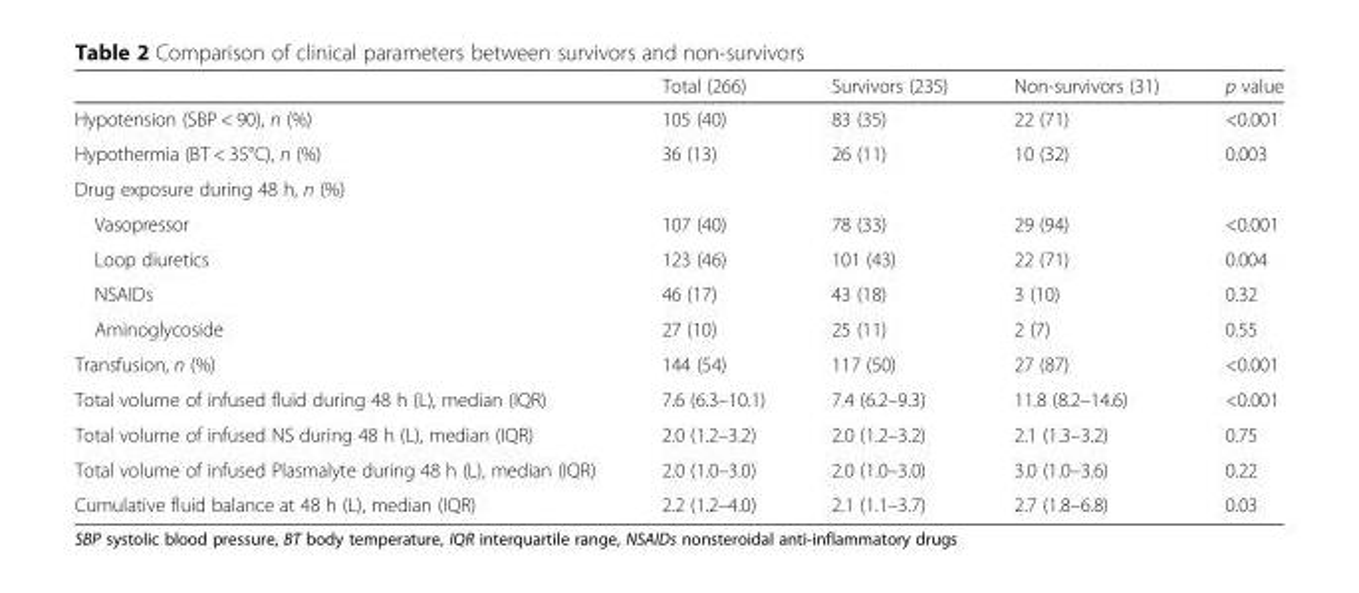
<table><thead><tr><td></td><td>Total (266)</td><td>Survivors (235)</td><td>Non-survivors (31)</td><td>p value</td></tr></thead><tbody><tr><td>Hypotension (SBP &lt; 90), n (%)</td><td>105 (40)</td><td>83 (35)</td><td>22 (71)</td><td>&lt;0.001</td></tr><tr><td>Hypothermia (BT &lt; 35°C), n (%)</td><td>36 (13)</td><td>26 (11)</td><td>10 (32)</td><td>0.003</td></tr><tr><td colspan="5">Drug exposure during 48 h, n (%)</td></tr><tr><td>Vasopressor</td><td>107 (40)</td><td>78 (33)</td><td>29 (94)</td><td>&lt;0.001</td></tr><tr><td>Loop diuretics</td><td>123 (46)</td><td>101 (43)</td><td>22 (71)</td><td>0.004</td></tr><tr><td>NSAIDs</td><td>46 (17)</td><td>43 (18)</td><td>3 (10)</td><td>0.32</td></tr><tr><td>Aminoglycoside</td><td>27 (10)</td><td>25 (11)</td><td>2 (7)</td><td>0.55</td></tr><tr><td>Transfusion, n (%)</td><td>144 (54)</td><td>117 (50)</td><td>27 (87)</td><td>&lt;0.001</td></tr><tr><td>Total volume of infused fluid during 48 h (L), median (IQR)</td><td>7.6 (6.3–10.1)</td><td>7.4 (6.2–9.3)</td><td>11.8 (8.2–14.6)</td><td>&lt;0.001</td></tr><tr><td>Total volume of infused NS during 48 h (L), median (IQR)</td><td>2.0 (1.2–3.2)</td><td>2.0 (1.2–3.2)</td><td>2.1 (1.3–3.2)</td><td>0.75</td></tr><tr><td>Total volume of infused Plasmalyte during 48 h (L), median (IQR)</td><td>2.0 (1.0–3.0)</td><td>2.0 (1.0–3.0)</td><td>3.0 (1.0–3.6)</td><td>0.22</td></tr><tr><td>Cumulative fluid balance at 48 h (L), median (IQR)</td><td>2.2 (1.2–4.0)</td><td>2.1 (1.1–3.7)</td><td>2.7 (1.8–6.8)</td><td>0.03</td></tr></tbody></table>